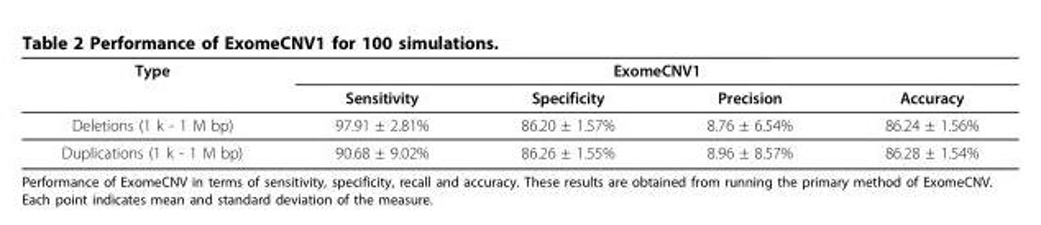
<table><thead><tr><td rowspan="2">Type</td><td colspan="4">ExomeCNV1</td></tr><tr><td>Sensitivity</td><td>Specificity</td><td>Precision</td><td>Accuracy</td></tr></thead><tbody><tr><td>Deletions (1 k - 1 M bp)</td><td>97.91 ± 2.81%</td><td>86.20 ± 1.57%</td><td>8.76 ± 6.54%</td><td>86.24 ± 1.56%</td></tr><tr><td>Duplications (1 k - 1 M bp)</td><td>90.68 ± 9.02%</td><td>86.26 ± 1.55%</td><td>8.96 ± 8.57%</td><td>86.28 ± 1.54%</td></tr></tbody></table>